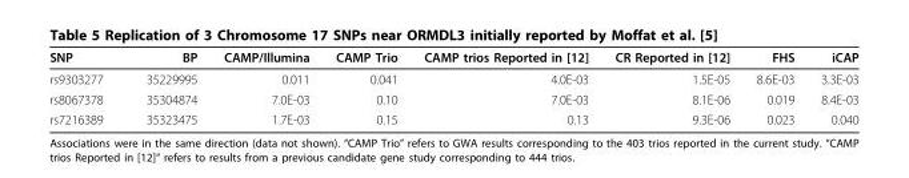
<table><thead><tr><td>SNP</td><td>BP</td><td>CAMP/Illumina</td><td>CAMP Trio</td><td>CAMP trios Reported in [12]</td><td>CR Reported in [12]</td><td>FHS</td><td>iCAP</td></tr></thead><tbody><tr><td>rs9303277</td><td>35229995</td><td>0.011</td><td>0.041</td><td>4.0E-03</td><td>1.5E-05</td><td>8.6E-03</td><td>3.3E-03</td></tr><tr><td>rs8067378</td><td>35304874</td><td>7.0E-03</td><td>0.10</td><td>7.0E-03</td><td>8.1E-06</td><td>0.019</td><td>8.4E-03</td></tr><tr><td>rs7216389</td><td>35323475</td><td>1.7E-03</td><td>0.15</td><td>0.13</td><td>9.3E-06</td><td>0.023</td><td>0.040</td></tr></tbody></table>